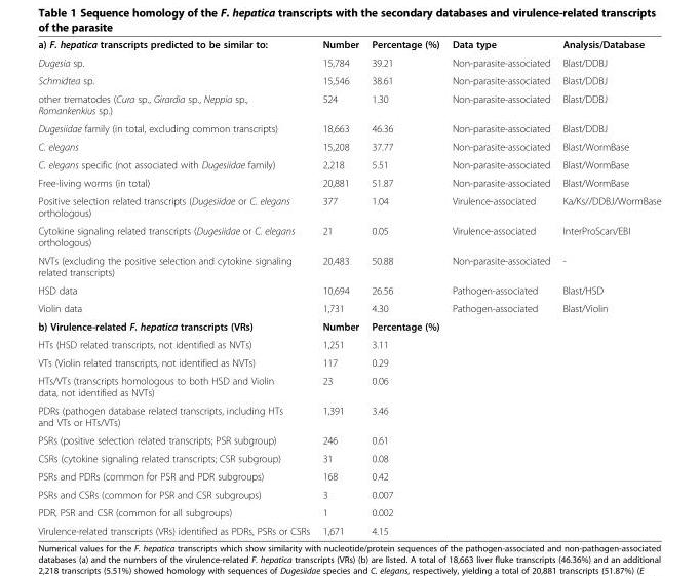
<table><tbody><tr><td>a) F. hepatica transcripts predicted to be similar to:</td><td>Number</td><td>Percentage (%)</td><td>Data type</td><td>Analysis/Database</td></tr><tr><td>Dugesia sp.</td><td>15,784</td><td>39.21</td><td>Non-parasite-associated</td><td>Blast/DDBJ</td></tr><tr><td>Schmidtea sp.</td><td>15,546</td><td>38.61</td><td>Non-parasite-associated</td><td>Blast/DDBJ</td></tr><tr><td>other trematodes (Cura sp., Girardia sp., Neppia sp., Romankenkius sp.)</td><td>524</td><td>1.30</td><td>Non-parasite-associated</td><td>Blast/DDBJ</td></tr><tr><td>Dugesiidae family (in total, excluding common transcripts)</td><td>18,663</td><td>46.36</td><td>Non-parasite-associated</td><td>Blast/DDBJ</td></tr><tr><td>C. elegans</td><td>15,208</td><td>37.77</td><td>Non-parasite-associated</td><td>Blast/WormBase</td></tr><tr><td>C. elegans specific (not associated with Dugesiidae family)</td><td>2,218</td><td>5.51</td><td>Non-parasite-associated</td><td>Blast/WormBase</td></tr><tr><td>Free-living worms (in total)</td><td>20,881</td><td>51.87</td><td>Non-parasite-associated</td><td>Blast/WormBase</td></tr><tr><td>Positive selection related transcripts (Dugesiidae or C. elegans orthologous)</td><td>377</td><td>1.04</td><td>Virulence-associated</td><td>Ka/Ks//DDBJ/WormBase</td></tr><tr><td>Cytokine signaling related transcripts (Dugesiidae or C. elegans orthologous)</td><td>21</td><td>0.05</td><td>Virulence-associated</td><td>InterProScan/EBI</td></tr><tr><td>NVTs (excluding the positive selection and cytokine signaling related transcripts)</td><td>20,483</td><td>50.88</td><td>Non-parasite-associated</td><td>-</td></tr><tr><td>HSD data</td><td>10,694</td><td>26.56</td><td>Pathogen-associated</td><td>Blast/HSD</td></tr><tr><td>Violin data</td><td>1,731</td><td>4.30</td><td>Pathogen-associated</td><td>Blast/Violin</td></tr><tr><td>b) Virulence-related F. hepatica transcripts (VRs)</td><td>Number</td><td>Percentage (%)</td><td></td><td></td></tr><tr><td>HTs (HSD related transcripts, not identified as NVTs)</td><td>1,251</td><td>3.11</td><td></td><td></td></tr><tr><td>VTs (Violin related transcripts, not identified as NVTs)</td><td>117</td><td>0.29</td><td></td><td></td></tr><tr><td>HTs/VTs (transcripts homologous to both HSD and Violin data, not identified as NVTs)</td><td>23</td><td>0.06</td><td></td><td></td></tr><tr><td>PDRs (pathogen database related transcripts, including HTs and VTs or HTs/VTs)</td><td>1,391</td><td>3.46</td><td></td><td></td></tr><tr><td>PSRs (positive selection related transcripts; PSR subgroup)</td><td>246</td><td>0.61</td><td></td><td></td></tr><tr><td>CSRs (cytokine signaling related transcripts; CSR subgroup)</td><td>31</td><td>0.08</td><td></td><td></td></tr><tr><td>PSRs and PDRs (common for PSR and PDR subgroups)</td><td>168</td><td>0.42</td><td></td><td></td></tr><tr><td>PSRs and CSRs (common for PSR and CSR subgroups)</td><td>3</td><td>0.007</td><td></td><td></td></tr><tr><td>PDR, PSR and CSR (common for all subgroups)</td><td>1</td><td>0.002</td><td></td><td></td></tr><tr><td>Virulence-related transcripts (VRs) identified as PDRs, PSRs or CSRs</td><td>1,671</td><td>4.15</td><td></td><td></td></tr></tbody></table>